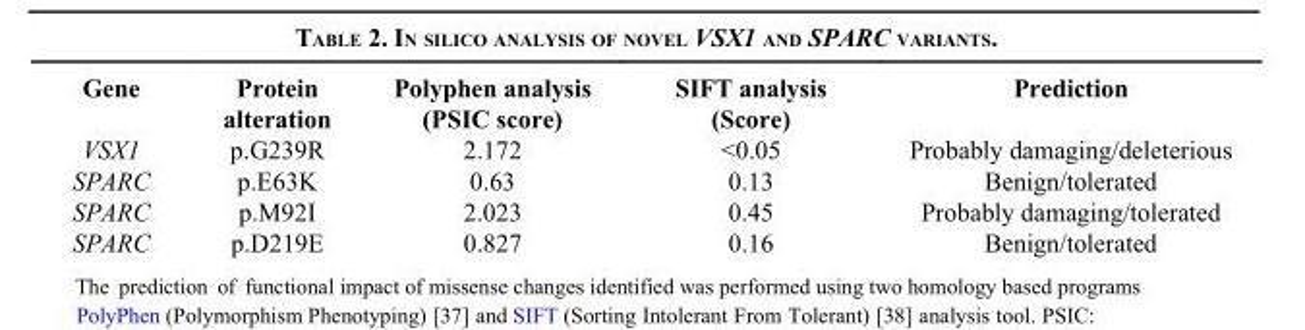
<table><thead><tr><td>Gene</td><td>Protein alteration</td><td>Polyphen analysis (PSIC score)</td><td>SIFT analysis (Score)</td><td>Prediction</td></tr></thead><tbody><tr><td>VSX1</td><td>p.G239R</td><td>2.172</td><td>&lt;0.05</td><td>Probably damaging/deleterious</td></tr><tr><td>SPARC</td><td>p.E63K</td><td>0.63</td><td>0.13</td><td>Benign/tolerated</td></tr><tr><td>SPARC</td><td>p.M92I</td><td>2.023</td><td>0.45</td><td>Probably damaging/tolerated</td></tr><tr><td>SPARC</td><td>p.D219E</td><td>0.827</td><td>0.16</td><td>Benign/tolerated</td></tr></tbody></table>